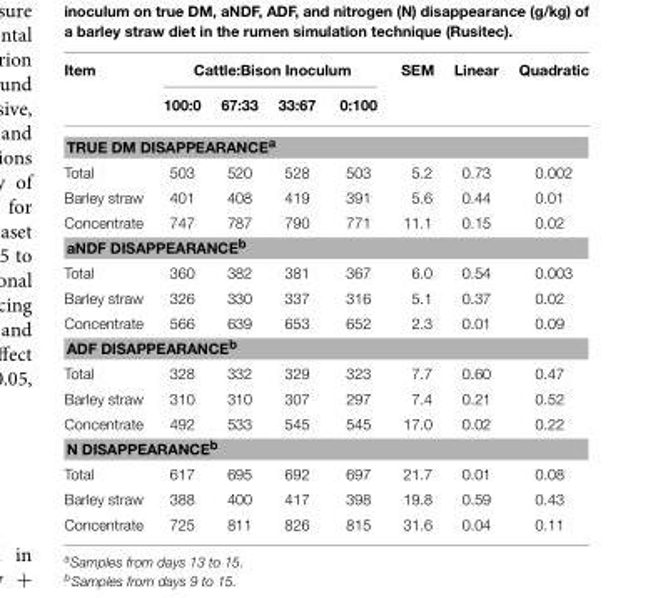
<table><thead><tr><td rowspan="2">Item</td><td colspan="4">Cattle:Bison Inoculum</td><td rowspan="2">SEM</td><td rowspan="2">Linear</td><td rowspan="2">Quadratic</td></tr><tr><td>100:0</td><td>67:33</td><td>33:67</td><td>0:100</td></tr></thead><tbody><tr><td colspan="8">TRUE DM DISAPPEARANCE<sup>a</sup></td></tr><tr><td>Total</td><td>503</td><td>520</td><td>528</td><td>503</td><td>5.2</td><td>0.73</td><td>0.002</td></tr><tr><td>Barley straw</td><td>401</td><td>408</td><td>419</td><td>391</td><td>5.6</td><td>0.44</td><td>0.01</td></tr><tr><td>Concentrate</td><td>747</td><td>787</td><td>790</td><td>771</td><td>11.1</td><td>0.15</td><td>0.02</td></tr><tr><td colspan="8">aNDF DISAPPEARANCE<sup>b</sup></td></tr><tr><td>Total</td><td>360</td><td>382</td><td>381</td><td>367</td><td>6.0</td><td>0.54</td><td>0.003</td></tr><tr><td>Barley straw</td><td>326</td><td>330</td><td>337</td><td>316</td><td>5.1</td><td>0.37</td><td>0.02</td></tr><tr><td>Concentrate</td><td>566</td><td>639</td><td>653</td><td>652</td><td>2.3</td><td>0.01</td><td>0.09</td></tr><tr><td colspan="8">ADF DISAPPEARANCE<sup>b</sup></td></tr><tr><td>Total</td><td>328</td><td>332</td><td>329</td><td>323</td><td>7.7</td><td>0.60</td><td>0.47</td></tr><tr><td>Barley straw</td><td>310</td><td>310</td><td>307</td><td>297</td><td>7.4</td><td>0.21</td><td>0.52</td></tr><tr><td>Concentrate</td><td>492</td><td>533</td><td>545</td><td>545</td><td>17.0</td><td>0.02</td><td>0.22</td></tr><tr><td colspan="8">N DISAPPEARANCE<sup>b</sup></td></tr><tr><td>Total</td><td>617</td><td>695</td><td>692</td><td>697</td><td>21.7</td><td>0.01</td><td>0.08</td></tr><tr><td>Barley straw</td><td>388</td><td>400</td><td>417</td><td>398</td><td>19.8</td><td>0.59</td><td>0.43</td></tr><tr><td>Concentrate</td><td>725</td><td>811</td><td>826</td><td>815</td><td>31.6</td><td>0.04</td><td>0.11</td></tr></tbody></table>